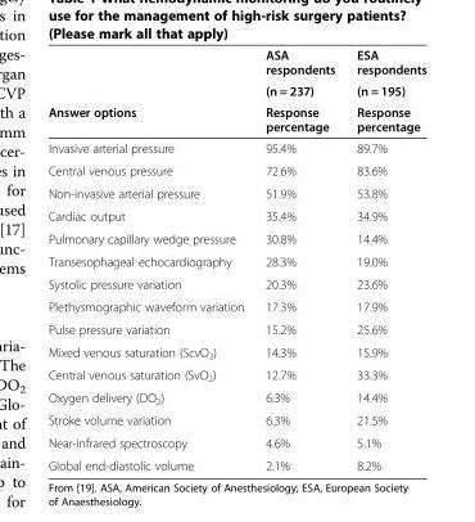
<table><thead><tr><td rowspan="3">Answer options</td><td rowspan="3">ASA respondents (n = 237) Response percentage</td><td rowspan="3">ESA respondents (n = 195) Response percentage</td></tr><tr></tr><tr></tr></thead><tbody><tr><td>Invasive arterial pressure</td><td>95.4%</td><td>89.7%</td></tr><tr><td>Central venous pressure</td><td>72.6%</td><td>83.6%</td></tr><tr><td>Non-invasive arterial pressure</td><td>51.9%</td><td>53.8%</td></tr><tr><td>Cardiac output</td><td>35.4%</td><td>34.9%</td></tr><tr><td>Pulmonary capillary wedge pressure</td><td>30.8%</td><td>14.4%</td></tr><tr><td>Transesophageal echocardiography</td><td>28.3%</td><td>19.0%</td></tr><tr><td>Systolic pressure variation</td><td>20.3%</td><td>23.6%</td></tr><tr><td>Plethysmographic waveform variation</td><td>17.3%</td><td>17.9%</td></tr><tr><td>Pulse pressure variation</td><td>15.2%</td><td>25.6%</td></tr><tr><td>Mixed venous saturation (ScvO<sub>2</sub>)</td><td>14.3%</td><td>15.9%</td></tr><tr><td>Central venous saturation (SvO<sub>2</sub>)</td><td>12.7%</td><td>33.3%</td></tr><tr><td>Oxygen delivery (DO<sub>2</sub>)</td><td>6.3%</td><td>14.4%</td></tr><tr><td>Stroke volume variation</td><td>6.3%</td><td>21.5%</td></tr><tr><td>Near-infrared spectroscopy</td><td>4.6%</td><td>5.1%</td></tr><tr><td>Global end-diastolic volume</td><td>2.1%</td><td>8.2%</td></tr></tbody></table>